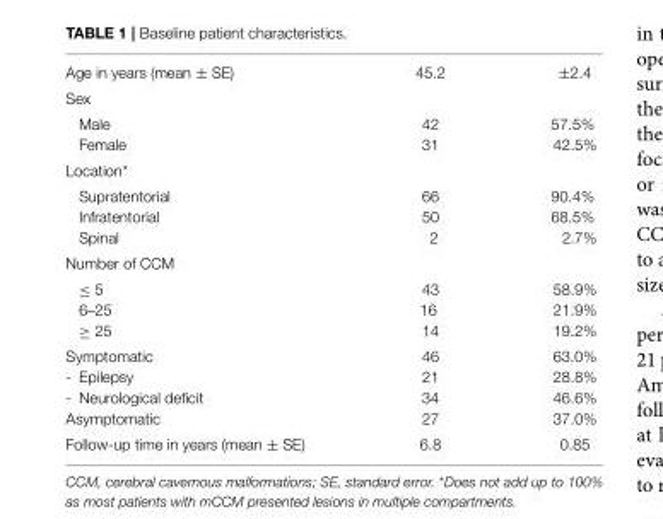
<table><tbody><tr><td>Age in years (mean ± SE)</td><td>45.2</td><td>±2.4</td></tr><tr><td colspan="3">Sex</td></tr><tr><td>Male Female</td><td>42 31</td><td>57.5% 42.5%</td></tr><tr><td colspan="3">Location*</td></tr><tr><td>Supratentorial Infratentorial Spinal</td><td>66 50 2</td><td>90.4% 68.5% 2.7%</td></tr><tr><td colspan="3">Number of CCM</td></tr><tr><td>≤ 5 6–25 ≥ 25</td><td>43 16 14</td><td>58.9% 21.9% 19.2%</td></tr><tr><td>Symptomatic - Epilepsy - Neurological deficit Asymptomatic</td><td>46 21 34 27</td><td>63.0% 28.8% 46.6% 37.0%</td></tr><tr><td>Follow-up time in years (mean ± SE)</td><td>6.8</td><td>0.85</td></tr></tbody></table>